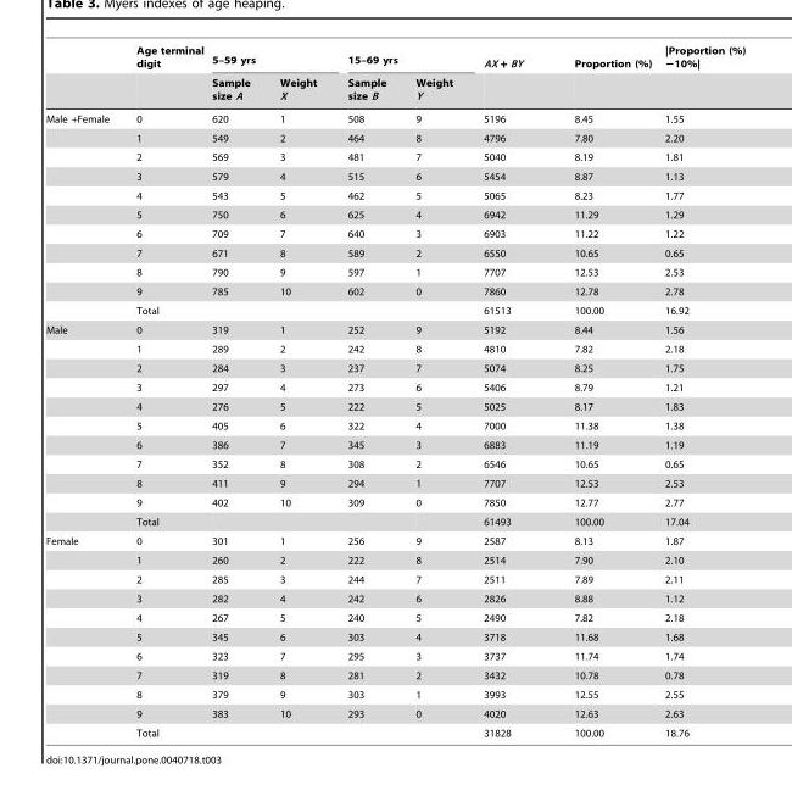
<table><thead><tr><td rowspan="2"></td><td rowspan="2">Age terminal digit</td><td colspan="2">5–59 yrs</td><td colspan="2">15–69 yrs</td><td rowspan="2">AX + BY</td><td rowspan="2">Proportion (%)</td><td rowspan="2">|Proportion (%) −10%|</td></tr><tr><td>Sample size A</td><td>Weight X</td><td>Sample size B</td><td>Weight Y</td></tr></thead><tbody><tr><td rowspan="11">Male +Female</td><td>0</td><td>620</td><td>1</td><td>508</td><td>9</td><td>5196</td><td>8.45</td><td>1.55</td></tr><tr><td>1</td><td>549</td><td>2</td><td>464</td><td>8</td><td>4796</td><td>7.80</td><td>2.20</td></tr><tr><td>2</td><td>569</td><td>3</td><td>481</td><td>7</td><td>5040</td><td>8.19</td><td>1.81</td></tr><tr><td>3</td><td>579</td><td>4</td><td>515</td><td>6</td><td>5454</td><td>8.87</td><td>1.13</td></tr><tr><td>4</td><td>543</td><td>5</td><td>462</td><td>5</td><td>5065</td><td>8.23</td><td>1.77</td></tr><tr><td>5</td><td>750</td><td>6</td><td>625</td><td>4</td><td>6942</td><td>11.29</td><td>1.29</td></tr><tr><td>6</td><td>709</td><td>7</td><td>640</td><td>3</td><td>6903</td><td>11.22</td><td>1.22</td></tr><tr><td>7</td><td>671</td><td>8</td><td>589</td><td>2</td><td>6550</td><td>10.65</td><td>0.65</td></tr><tr><td>8</td><td>790</td><td>9</td><td>597</td><td>1</td><td>7707</td><td>12.53</td><td>2.53</td></tr><tr><td>9</td><td>785</td><td>10</td><td>602</td><td>0</td><td>7860</td><td>12.78</td><td>2.78</td></tr><tr><td>Total</td><td></td><td></td><td></td><td></td><td>61513</td><td>100.00</td><td>16.92</td></tr><tr><td rowspan="11">Male</td><td>0</td><td>319</td><td>1</td><td>252</td><td>9</td><td>5192</td><td>8.44</td><td>1.56</td></tr><tr><td>1</td><td>289</td><td>2</td><td>242</td><td>8</td><td>4810</td><td>7.82</td><td>2.18</td></tr><tr><td>2</td><td>284</td><td>3</td><td>237</td><td>7</td><td>5074</td><td>8.25</td><td>1.75</td></tr><tr><td>3</td><td>297</td><td>4</td><td>273</td><td>6</td><td>5406</td><td>8.79</td><td>1.21</td></tr><tr><td>4</td><td>276</td><td>5</td><td>222</td><td>5</td><td>5025</td><td>8.17</td><td>1.83</td></tr><tr><td>5</td><td>405</td><td>6</td><td>322</td><td>4</td><td>7000</td><td>11.38</td><td>1.38</td></tr><tr><td>6</td><td>386</td><td>7</td><td>345</td><td>3</td><td>6883</td><td>11.19</td><td>1.19</td></tr><tr><td>7</td><td>352</td><td>8</td><td>308</td><td>2</td><td>6546</td><td>10.65</td><td>0.65</td></tr><tr><td>8</td><td>411</td><td>9</td><td>294</td><td>1</td><td>7707</td><td>12.53</td><td>2.53</td></tr><tr><td>9</td><td>402</td><td>10</td><td>309</td><td>0</td><td>7850</td><td>12.77</td><td>2.77</td></tr><tr><td>Total</td><td></td><td></td><td></td><td></td><td>61493</td><td>100.00</td><td>17.04</td></tr><tr><td rowspan="11">Female</td><td>0</td><td>301</td><td>1</td><td>256</td><td>9</td><td>2587</td><td>8.13</td><td>1.87</td></tr><tr><td>1</td><td>260</td><td>2</td><td>222</td><td>8</td><td>2514</td><td>7.90</td><td>2.10</td></tr><tr><td>2</td><td>285</td><td>3</td><td>244</td><td>7</td><td>2511</td><td>7.89</td><td>2.11</td></tr><tr><td>3</td><td>282</td><td>4</td><td>242</td><td>6</td><td>2826</td><td>8.88</td><td>1.12</td></tr><tr><td>4</td><td>267</td><td>5</td><td>240</td><td>5</td><td>2490</td><td>7.82</td><td>2.18</td></tr><tr><td>5</td><td>345</td><td>6</td><td>303</td><td>4</td><td>3718</td><td>11.68</td><td>1.68</td></tr><tr><td>6</td><td>323</td><td>7</td><td>295</td><td>3</td><td>3737</td><td>11.74</td><td>1.74</td></tr><tr><td>7</td><td>319</td><td>8</td><td>281</td><td>2</td><td>3432</td><td>10.78</td><td>0.78</td></tr><tr><td>8</td><td>379</td><td>9</td><td>303</td><td>1</td><td>3993</td><td>12.55</td><td>2.55</td></tr><tr><td>9</td><td>383</td><td>10</td><td>293</td><td>0</td><td>4020</td><td>12.63</td><td>2.63</td></tr><tr><td>Total</td><td></td><td></td><td></td><td></td><td>31828</td><td>100.00</td><td>18.76</td></tr></tbody></table>